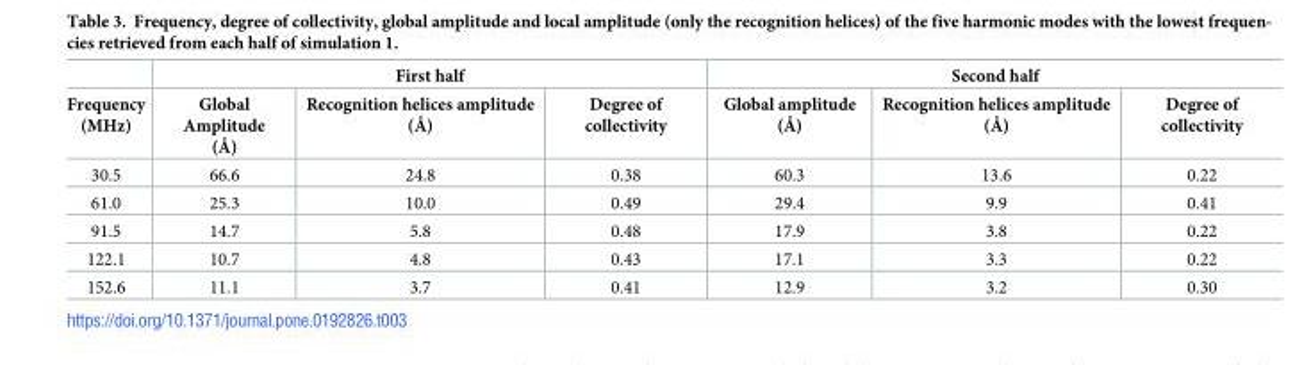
<table><thead><tr><td rowspan="2">Frequency (MHz)</td><td colspan="3">First half</td><td colspan="3">Second half</td></tr><tr><td>Global Amplitude (Å)</td><td>Recognition helices amplitude (Å)</td><td>Degree of collectivity</td><td>Global amplitude (Å)</td><td>Recognition helices amplitude (Å)</td><td>Degree of collectivity</td></tr></thead><tbody><tr><td>30.5</td><td>66.6</td><td>24.8</td><td>0.38</td><td>60.3</td><td>13.6</td><td>0.22</td></tr><tr><td>61.0</td><td>25.3</td><td>10.0</td><td>0.49</td><td>29.4</td><td>9.9</td><td>0.41</td></tr><tr><td>91.5</td><td>14.7</td><td>5.8</td><td>0.48</td><td>17.9</td><td>3.8</td><td>0.22</td></tr><tr><td>122.1</td><td>10.7</td><td>4.8</td><td>0.43</td><td>17.1</td><td>3.3</td><td>0.22</td></tr><tr><td>152.6</td><td>11.1</td><td>3.7</td><td>0.41</td><td>12.9</td><td>3.2</td><td>0.30</td></tr></tbody></table>